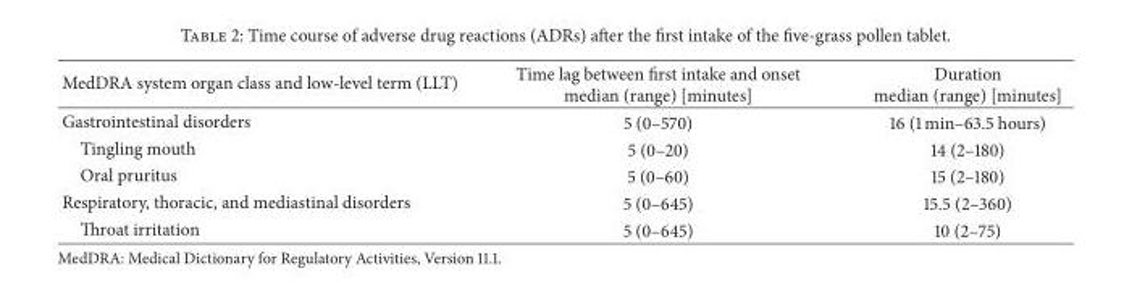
<table><thead><tr><td>MedDRA system organ class and low-level term (LLT)</td><td>Time lag between first intake and onset median (range) [minutes]</td><td>Duration median (range) [minutes]</td></tr></thead><tbody><tr><td>Gastrointestinal disorders</td><td>5 (0–570)</td><td>16 (1 min–63.5 hours)</td></tr><tr><td>Tingling mouth</td><td>5 (0–20)</td><td>14 (2–180)</td></tr><tr><td>Oral pruritus</td><td>5 (0–60)</td><td>15 (2–180)</td></tr><tr><td>Respiratory, thoracic, and mediastinal disorders</td><td>5 (0–645)</td><td>15.5 (2–360)</td></tr><tr><td>Throat irritation</td><td>5 (0–645)</td><td>10 (2–75)</td></tr></tbody></table>